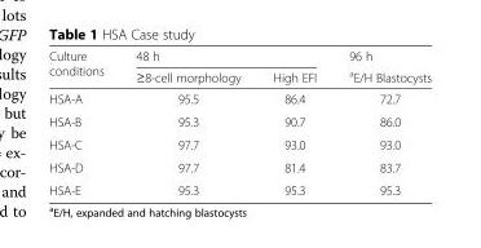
<table><thead><tr><td rowspan="2">Culture conditions</td><td colspan="2">48 h</td><td rowspan="2">96 h <sup>a</sup>E/H Blastocysts</td></tr><tr><td>≥8-cell morphology</td><td>High EFI</td></tr></thead><tbody><tr><td>HSA-A</td><td>95.5</td><td>86.4</td><td>72.7</td></tr><tr><td>HSA-B</td><td>95.3</td><td>90.7</td><td>86.0</td></tr><tr><td>HSA-C</td><td>97.7</td><td>93.0</td><td>93.0</td></tr><tr><td>HSA-D</td><td>97.7</td><td>81.4</td><td>83.7</td></tr><tr><td>HSA-E</td><td>95.3</td><td>95.3</td><td>95.3</td></tr></tbody></table>